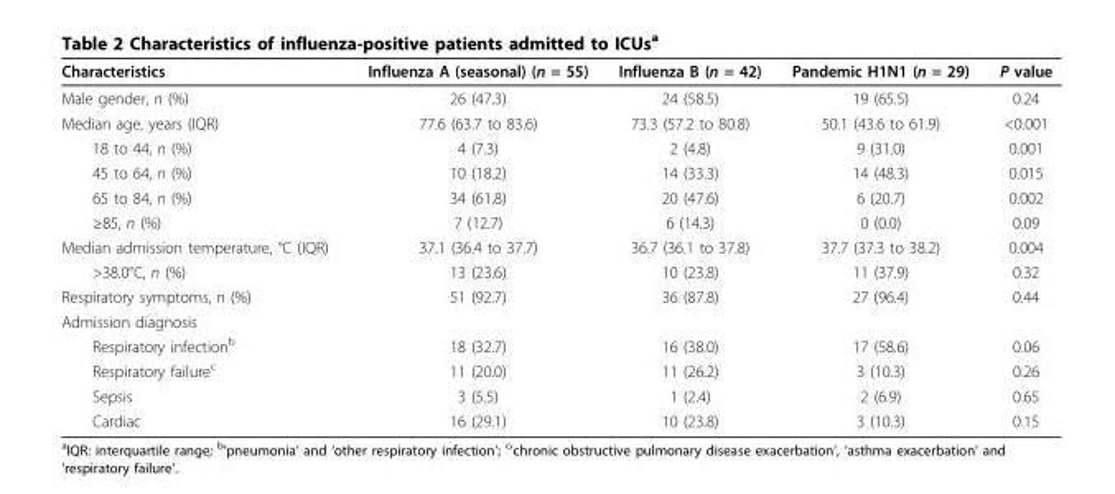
<table><thead><tr><td>Characteristics</td><td>Influenza A (seasonal) (n = 55)</td><td>Influenza B (n = 42)</td><td>Pandemic H1N1 (n = 29)</td><td>P value</td></tr></thead><tbody><tr><td>Male gender, n (%)</td><td>26 (47.3)</td><td>24 (58.5)</td><td>19 (65.5)</td><td>0.24</td></tr><tr><td>Median age, years (IQR)</td><td>77.6 (63.7 to 83.6)</td><td>73.3 (57.2 to 80.8)</td><td>50.1 (43.6 to 61.9)</td><td>&lt;0.001</td></tr><tr><td>18 to 44, n (%)</td><td>4 (7.3)</td><td>2 (4.8)</td><td>9 (31.0)</td><td>0.001</td></tr><tr><td>45 to 64, n (%)</td><td>10 (18.2)</td><td>14 (33.3)</td><td>14 (48.3)</td><td>0.015</td></tr><tr><td>65 to 84, n (%)</td><td>34 (61.8)</td><td>20 (47.6)</td><td>6 (20.7)</td><td>0.002</td></tr><tr><td>≥85, n (%)</td><td>7 (12.7)</td><td>6 (14.3)</td><td>0 (0.0)</td><td>0.09</td></tr><tr><td>Median admission temperature, °C (IQR)</td><td>37.1 (36.4 to 37.7)</td><td>36.7 (36.1 to 37.8)</td><td>37.7 (37.3 to 38.2)</td><td>0.004</td></tr><tr><td>&gt;38.0°C, n (%)</td><td>13 (23.6)</td><td>10 (23.8)</td><td>11 (37.9)</td><td>0.32</td></tr><tr><td>Respiratory symptoms, n (%)</td><td>51 (92.7)</td><td>36 (87.8)</td><td>27 (96.4)</td><td>0.44</td></tr><tr><td colspan="5">Admission diagnosis</td></tr><tr><td>Respiratory infection<sup>b</sup></td><td>18 (32.7)</td><td>16 (38.0)</td><td>17 (58.6)</td><td>0.06</td></tr><tr><td>Respiratory failure<sup>c</sup></td><td>11 (20.0)</td><td>11 (26.2)</td><td>3 (10.3)</td><td>0.26</td></tr><tr><td>Sepsis</td><td>3 (5.5)</td><td>1 (2.4)</td><td>2 (6.9)</td><td>0.65</td></tr><tr><td>Cardiac</td><td>16 (29.1)</td><td>10 (23.8)</td><td>3 (10.3)</td><td>0.15</td></tr></tbody></table>